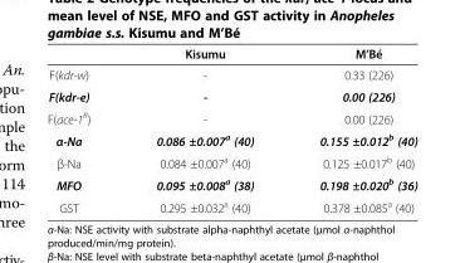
<table><thead><tr><td></td><td>Kisumu</td><td>M’Bé</td></tr></thead><tbody><tr><td>F(kdr-w)</td><td>-</td><td>0.33 (226)</td></tr><tr><td>F(kdr-e)</td><td>-</td><td>0.00 (226)</td></tr><tr><td>F(ace-1<sup>R</sup>)</td><td>-</td><td>0.00 (226)</td></tr><tr><td>α-Na</td><td>0.086 ±0.007<sup>a</sup> (40)</td><td>0.155 ±0.012<sup>b</sup> (40)</td></tr><tr><td>β-Na</td><td>0.084 ±0.007<sup>a</sup> (40)</td><td>0.125 ±0.017<sup>b</sup> (40)</td></tr><tr><td>MFO</td><td>0.095 ±0.008<sup>a</sup> (38)</td><td>0.198 ±0.020<sup>b</sup> (36)</td></tr><tr><td>GST</td><td>0.295 ±0.032<sup>a</sup> (40)</td><td>0.378 ±0.085<sup>a</sup> (40)</td></tr></tbody></table>